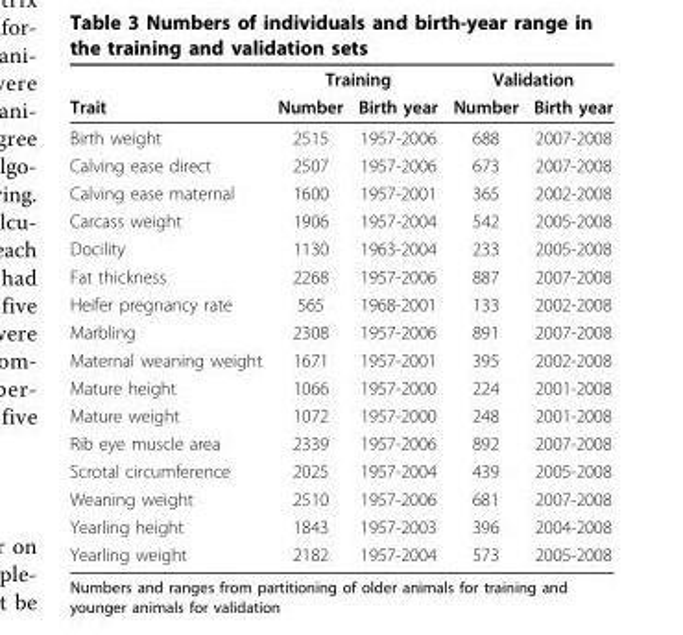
<table><thead><tr><td rowspan="2">Trait</td><td colspan="2">Training</td><td colspan="2">Validation</td></tr><tr><td>Number</td><td>Birth year</td><td>Number</td><td>Birth year</td></tr></thead><tbody><tr><td>Birth weight</td><td>2515</td><td>1957-2006</td><td>688</td><td>2007-2008</td></tr><tr><td>Calving ease direct</td><td>2507</td><td>1957-2006</td><td>673</td><td>2007-2008</td></tr><tr><td>Calving ease maternal</td><td>1600</td><td>1957-2001</td><td>365</td><td>2002-2008</td></tr><tr><td>Carcass weight</td><td>1906</td><td>1957-2004</td><td>542</td><td>2005-2008</td></tr><tr><td>Docility</td><td>1130</td><td>1963-2004</td><td>233</td><td>2005-2008</td></tr><tr><td>Fat thickness</td><td>2268</td><td>1957-2006</td><td>887</td><td>2007-2008</td></tr><tr><td>Heifer pregnancy rate</td><td>565</td><td>1968-2001</td><td>133</td><td>2002-2008</td></tr><tr><td>Marbling</td><td>2308</td><td>1957-2006</td><td>891</td><td>2007-2008</td></tr><tr><td>Maternal weaning weight</td><td>1671</td><td>1957-2001</td><td>395</td><td>2002-2008</td></tr><tr><td>Mature height</td><td>1066</td><td>1957-2000</td><td>224</td><td>2001-2008</td></tr><tr><td>Mature weight</td><td>1072</td><td>1957-2000</td><td>248</td><td>2001-2008</td></tr><tr><td>Rib eye muscle area</td><td>2339</td><td>1957-2006</td><td>892</td><td>2007-2008</td></tr><tr><td>Scrotal circumference</td><td>2025</td><td>1957-2004</td><td>439</td><td>2005-2008</td></tr><tr><td>Weaning weight</td><td>2510</td><td>1957-2006</td><td>681</td><td>2007-2008</td></tr><tr><td>Yearling height</td><td>1843</td><td>1957-2003</td><td>396</td><td>2004-2008</td></tr><tr><td>Yearling weight</td><td>2182</td><td>1957-2004</td><td>573</td><td>2005-2008</td></tr></tbody></table>